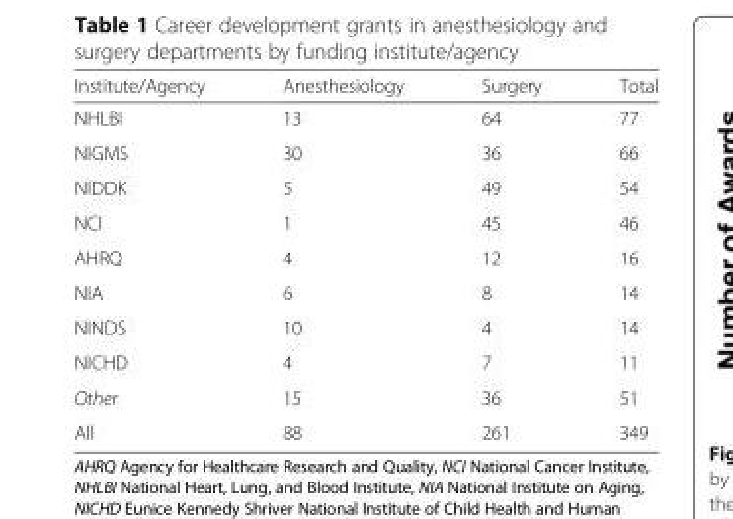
<table><thead><tr><td>Institute/Agency</td><td>Anesthesiology</td><td>Surgery</td><td>Total</td></tr></thead><tbody><tr><td>NHLBI</td><td>13</td><td>64</td><td>77</td></tr><tr><td>NIGMS</td><td>30</td><td>36</td><td>66</td></tr><tr><td>NIDDK</td><td>5</td><td>49</td><td>54</td></tr><tr><td>NCI</td><td>1</td><td>45</td><td>46</td></tr><tr><td>AHRQ</td><td>4</td><td>12</td><td>16</td></tr><tr><td>NIA</td><td>6</td><td>8</td><td>14</td></tr><tr><td>NINDS</td><td>10</td><td>4</td><td>14</td></tr><tr><td>NICHD</td><td>4</td><td>7</td><td>11</td></tr><tr><td>Other</td><td>15</td><td>36</td><td>51</td></tr><tr><td>All</td><td>88</td><td>261</td><td>349</td></tr></tbody></table>